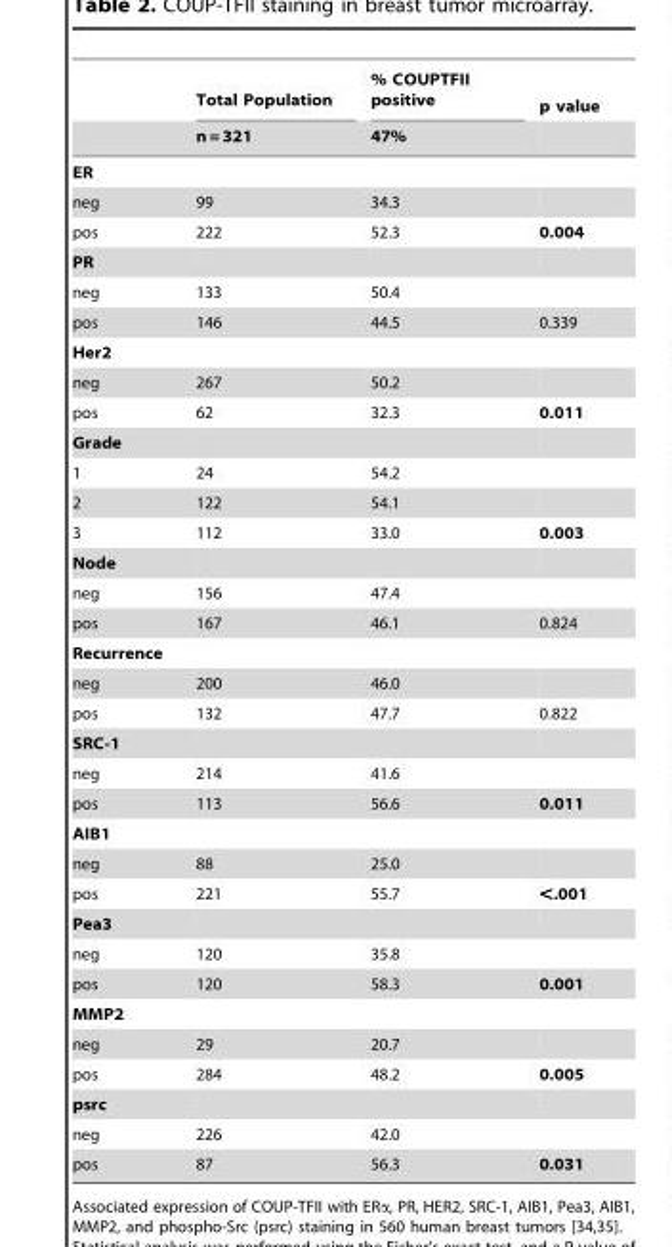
<table><thead><tr><td rowspan="2"></td><td rowspan="2">Total Population n = 321</td><td rowspan="2">% COUPTFII positive 47%</td><td rowspan="2">p value</td></tr><tr></tr></thead><tbody><tr><td colspan="4">ER</td></tr><tr><td>neg</td><td>99</td><td>34.3</td><td></td></tr><tr><td>pos</td><td>222</td><td>52.3</td><td>0.004</td></tr><tr><td colspan="4">PR</td></tr><tr><td>neg</td><td>133</td><td>50.4</td><td></td></tr><tr><td>pos</td><td>146</td><td>44.5</td><td>0.339</td></tr><tr><td colspan="4">Her2</td></tr><tr><td>neg</td><td>267</td><td>50.2</td><td></td></tr><tr><td>pos</td><td>62</td><td>32.3</td><td>0.011</td></tr><tr><td colspan="4">Grade</td></tr><tr><td>1</td><td>24</td><td>54.2</td><td></td></tr><tr><td>2</td><td>122</td><td>54.1</td><td></td></tr><tr><td>3</td><td>112</td><td>33.0</td><td>0.003</td></tr><tr><td colspan="4">Node</td></tr><tr><td>neg</td><td>156</td><td>47.4</td><td></td></tr><tr><td>pos</td><td>167</td><td>46.1</td><td>0.824</td></tr><tr><td colspan="4">Recurrence</td></tr><tr><td>neg</td><td>200</td><td>46.0</td><td></td></tr><tr><td>pos</td><td>132</td><td>47.7</td><td>0.822</td></tr><tr><td colspan="4">SRC-1</td></tr><tr><td>neg</td><td>214</td><td>41.6</td><td></td></tr><tr><td>pos</td><td>113</td><td>56.6</td><td>0.011</td></tr><tr><td colspan="4">AIB1</td></tr><tr><td>neg</td><td>88</td><td>25.0</td><td></td></tr><tr><td>pos</td><td>221</td><td>55.7</td><td>&lt;.001</td></tr><tr><td colspan="4">Pea3</td></tr><tr><td>neg</td><td>120</td><td>35.8</td><td></td></tr><tr><td>pos</td><td>120</td><td>58.3</td><td>0.001</td></tr><tr><td colspan="4">MMP2</td></tr><tr><td>neg</td><td>29</td><td>20.7</td><td></td></tr><tr><td>pos</td><td>284</td><td>48.2</td><td>0.005</td></tr><tr><td colspan="4">psrc</td></tr><tr><td>neg</td><td>226</td><td>42.0</td><td></td></tr><tr><td>pos</td><td>87</td><td>56.3</td><td>0.031</td></tr></tbody></table>